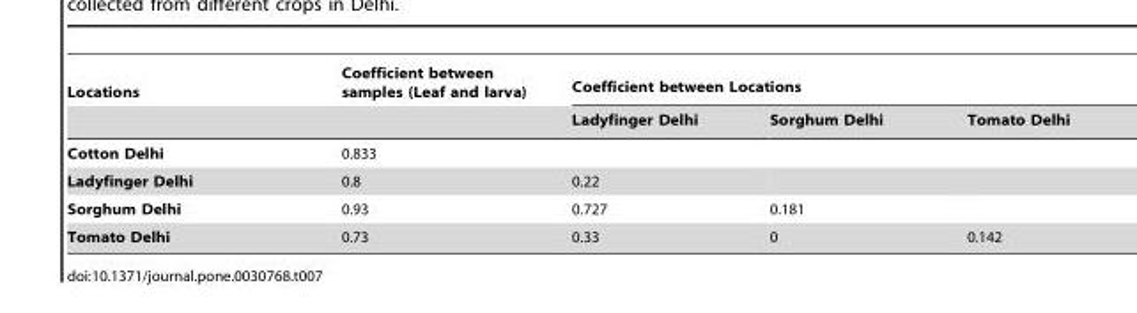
<table><thead><tr><td rowspan="2">Locations</td><td rowspan="2">Coefficient between samples (Leaf and larva)</td><td colspan="3">Coefficient between Locations</td></tr><tr><td>Ladyfinger Delhi</td><td>Sorghum Delhi</td><td>Tomato Delhi</td></tr></thead><tbody><tr><td>Cotton Delhi</td><td>0.833</td><td></td><td></td><td></td></tr><tr><td>Ladyfinger Delhi</td><td>0.8</td><td>0.22</td><td></td><td></td></tr><tr><td>Sorghum Delhi</td><td>0.93</td><td>0.727</td><td>0.181</td><td></td></tr><tr><td>Tomato Delhi</td><td>0.73</td><td>0.33</td><td>0</td><td>0.142</td></tr></tbody></table>